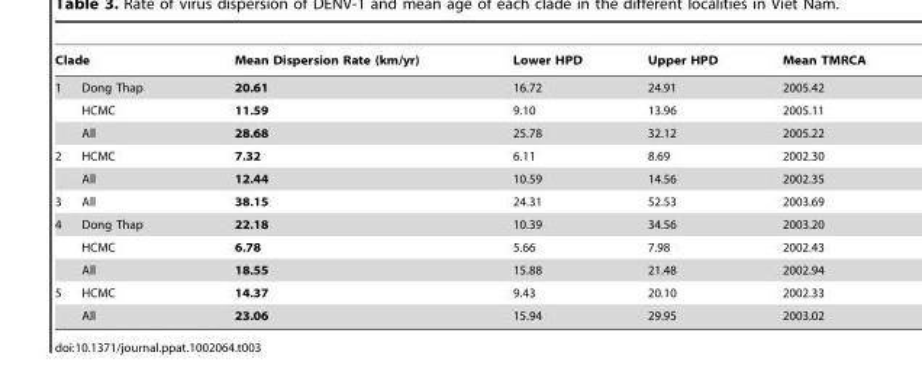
<table><thead><tr><td colspan="2">Clade</td><td rowspan="2">Mean Dispersion Rate (km/yr) 20.61</td><td rowspan="2">Lower HPD 16.72</td><td rowspan="2">Upper HPD 24.91</td><td rowspan="2">Mean TMRCA 2005.42</td></tr><tr><td>1</td><td>Dong Thap</td></tr></thead><tbody><tr><td></td><td>HCMC</td><td>11.59</td><td>9.10</td><td>13.96</td><td>2005.11</td></tr><tr><td></td><td>All</td><td>28.68</td><td>25.78</td><td>32.12</td><td>2005.22</td></tr><tr><td rowspan="2">2</td><td>HCMC</td><td>7.32</td><td>6.11</td><td>8.69</td><td>2002.30</td></tr><tr><td>All</td><td>12.44</td><td>10.59</td><td>14.56</td><td>2002.35</td></tr><tr><td>3</td><td>All</td><td>38.15</td><td>24.31</td><td>52.53</td><td>2003.69</td></tr><tr><td rowspan="3">4</td><td>Dong Thap</td><td>22.18</td><td>10.39</td><td>34.56</td><td>2003.20</td></tr><tr><td>HCMC</td><td>6.78</td><td>5.66</td><td>7.98</td><td>2002.43</td></tr><tr><td>All</td><td>18.55</td><td>15.88</td><td>21.48</td><td>2002.94</td></tr><tr><td rowspan="2">5</td><td>HCMC</td><td>14.37</td><td>9.43</td><td>20.10</td><td>2002.33</td></tr><tr><td>All</td><td>23.06</td><td>15.94</td><td>29.95</td><td>2003.02</td></tr></tbody></table>